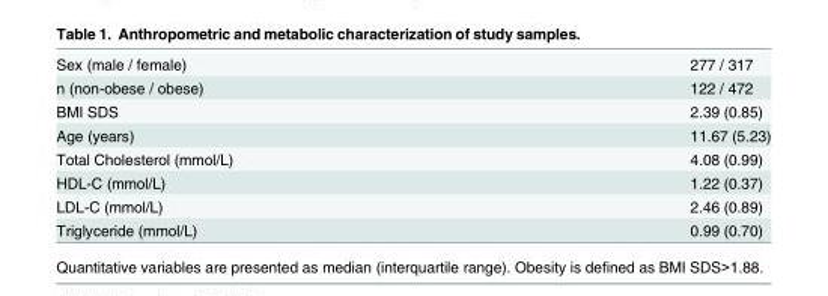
<table><tbody><tr><td>Sex (male / female)</td><td>277 / 317</td></tr><tr><td>n (non-obese / obese)</td><td>122 / 472</td></tr><tr><td>BMI SDS</td><td>2.39 (0.85)</td></tr><tr><td>Age (years)</td><td>11.67 (5.23)</td></tr><tr><td>Total Cholesterol (mmol/L)</td><td>4.08 (0.99)</td></tr><tr><td>HDL-C (mmol/L)</td><td>1.22 (0.37)</td></tr><tr><td>LDL-C (mmol/L)</td><td>2.46 (0.89)</td></tr><tr><td>Triglyceride (mmol/L)</td><td>0.99 (0.70)</td></tr></tbody></table>